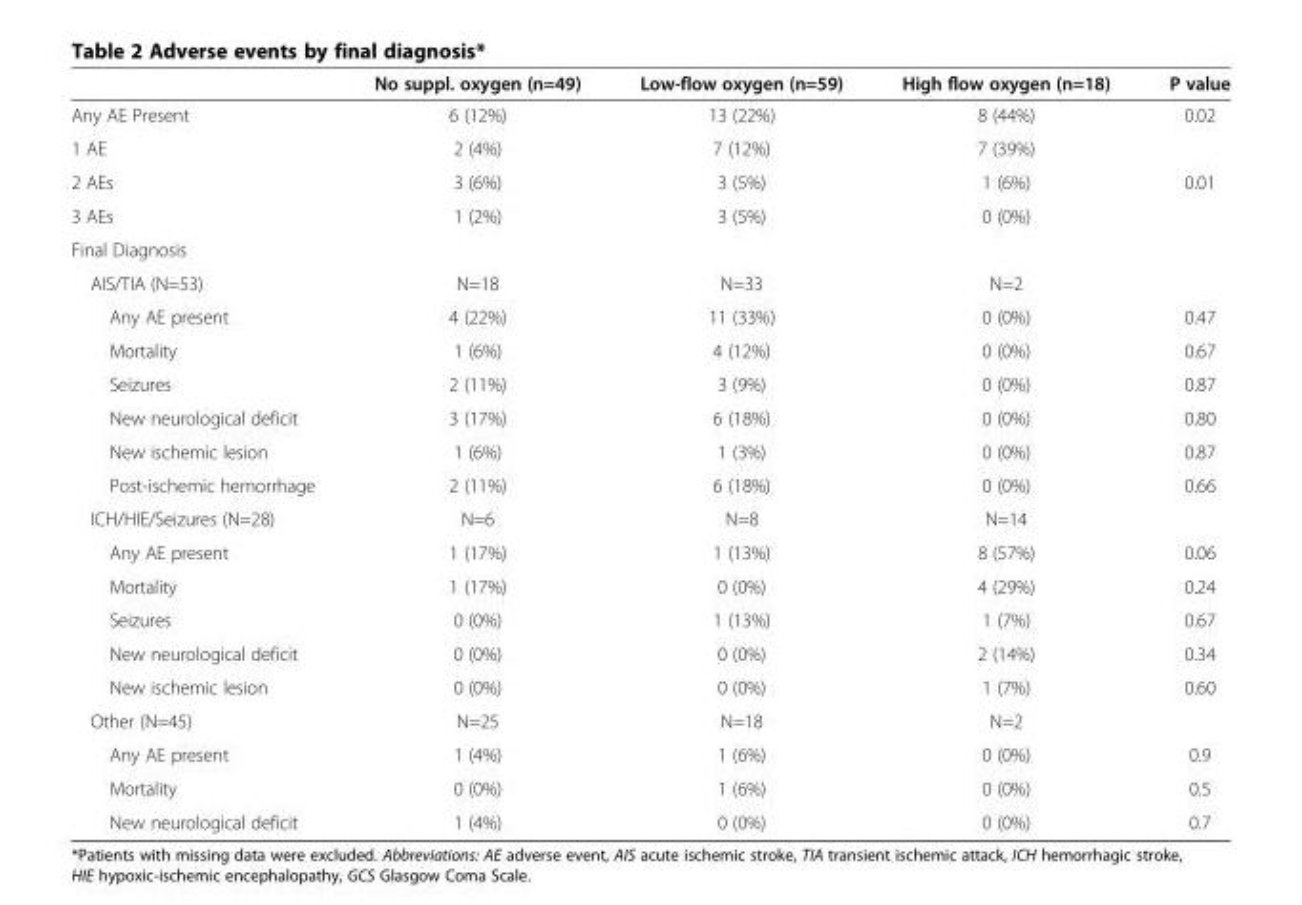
<table><thead><tr><td></td><td>No suppl. oxygen (n=49)</td><td>Low-flow oxygen (n=59)</td><td>High flow oxygen (n=18)</td><td>P value</td></tr></thead><tbody><tr><td>Any AE Present</td><td>6 (12%)</td><td>13 (22%)</td><td>8 (44%)</td><td>0.02</td></tr><tr><td>1 AE</td><td>2 (4%)</td><td>7 (12%)</td><td>7 (39%)</td><td></td></tr><tr><td>2 AEs</td><td>3 (6%)</td><td>3 (5%)</td><td>1 (6%)</td><td>0.01</td></tr><tr><td>3 AEs</td><td>1 (2%)</td><td>3 (5%)</td><td>0 (0%)</td><td></td></tr><tr><td colspan="5">Final Diagnosis</td></tr><tr><td>AIS/TIA (N=53)</td><td>N=18</td><td>N=33</td><td>N=2</td><td></td></tr><tr><td>Any AE present</td><td>4 (22%)</td><td>11 (33%)</td><td>0 (0%)</td><td>0.47</td></tr><tr><td>Mortality</td><td>1 (6%)</td><td>4 (12%)</td><td>0 (0%)</td><td>0.67</td></tr><tr><td>Seizures</td><td>2 (11%)</td><td>3 (9%)</td><td>0 (0%)</td><td>0.87</td></tr><tr><td>New neurological deficit</td><td>3 (17%)</td><td>6 (18%)</td><td>0 (0%)</td><td>0.80</td></tr><tr><td>New ischemic lesion</td><td>1 (6%)</td><td>1 (3%)</td><td>0 (0%)</td><td>0.87</td></tr><tr><td>Post-ischemic hemorrhage</td><td>2 (11%)</td><td>6 (18%)</td><td>0 (0%)</td><td>0.66</td></tr><tr><td>ICH/HIE/Seizures (N=28)</td><td>N=6</td><td>N=8</td><td>N=14</td><td></td></tr><tr><td>Any AE present</td><td>1 (17%)</td><td>1 (13%)</td><td>8 (57%)</td><td>0.06</td></tr><tr><td>Mortality</td><td>1 (17%)</td><td>0 (0%)</td><td>4 (29%)</td><td>0.24</td></tr><tr><td>Seizures</td><td>0 (0%)</td><td>1 (13%)</td><td>1 (7%)</td><td>0.67</td></tr><tr><td>New neurological deficit</td><td>0 (0%)</td><td>0 (0%)</td><td>2 (14%)</td><td>0.34</td></tr><tr><td>New ischemic lesion</td><td>0 (0%)</td><td>0 (0%)</td><td>1 (7%)</td><td>0.60</td></tr><tr><td>Other (N=45)</td><td>N=25</td><td>N=18</td><td>N=2</td><td></td></tr><tr><td>Any AE present</td><td>1 (4%)</td><td>1 (6%)</td><td>0 (0%)</td><td>0.9</td></tr><tr><td>Mortality</td><td>0 (0%)</td><td>1 (6%)</td><td>0 (0%)</td><td>0.5</td></tr><tr><td>New neurological deficit</td><td>1 (4%)</td><td>0 (0%)</td><td>0 (0%)</td><td>0.7</td></tr></tbody></table>